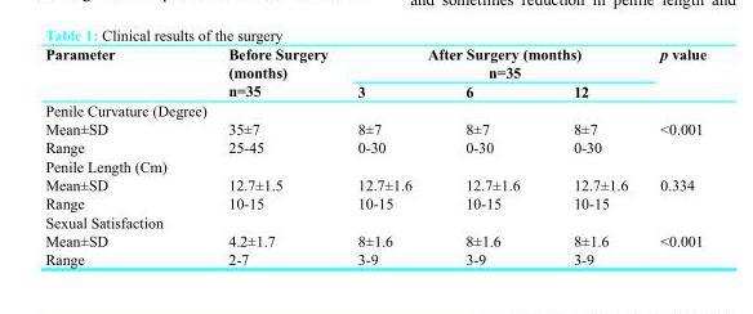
<table><thead><tr><td rowspan="2">Parameter</td><td rowspan="2">Before Surgery (months) n=35</td><td colspan="3">After Surgery (months) n=35</td><td rowspan="2">p value</td></tr><tr><td>3</td><td>6</td><td>12</td></tr></thead><tbody><tr><td colspan="6">Penile Curvature (Degree)</td></tr><tr><td>Mean±SD Range</td><td>35±7 25-45</td><td>8±7 0-30</td><td>8±7 0-30</td><td>8±7 0-30</td><td>&lt;0.001</td></tr><tr><td colspan="6">Penile Length (Cm)</td></tr><tr><td>Mean±SD Range</td><td>12.7±1.5 10-15</td><td>12.7±1.6 10-15</td><td>12.7±1.6 10-15</td><td>12.7±1.6 10-15</td><td>0.334</td></tr><tr><td colspan="6">Sexual Satisfaction</td></tr><tr><td>Mean±SD Range</td><td>4.2±1.7 2-7</td><td>8±1.6 3-9</td><td>8±1.6 3-9</td><td>8±1.6 3-9</td><td>&lt;0.001</td></tr></tbody></table>